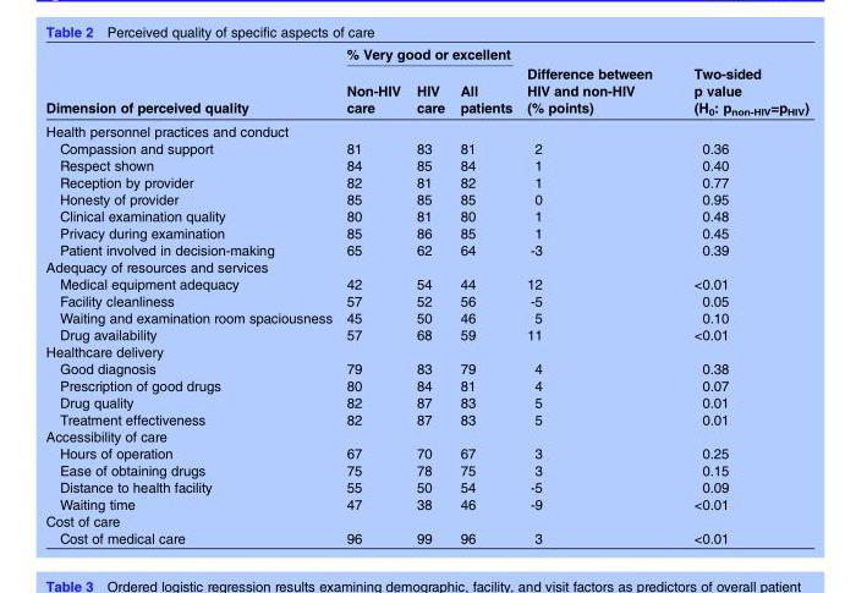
<table><thead><tr><td rowspan="2">Dimension of perceived quality</td><td colspan="3">% Very good or excellent</td><td rowspan="2">Difference between HIV and non-HIV (% points)</td><td rowspan="2">Two-sided p value (H<sub>0</sub>: p<sub>non-HIV</sub>=p<sub>HIV</sub>)</td></tr><tr><td>Non-HIV care</td><td>HIV care</td><td>All patients</td></tr></thead><tbody><tr><td colspan="6">Health personnel practices and conduct</td></tr><tr><td>Compassion and support</td><td>81</td><td>83</td><td>81</td><td>2</td><td>0.36</td></tr><tr><td>Respect shown</td><td>84</td><td>85</td><td>84</td><td>1</td><td>0.40</td></tr><tr><td>Reception by provider</td><td>82</td><td>81</td><td>82</td><td>1</td><td>0.77</td></tr><tr><td>Honesty of provider</td><td>85</td><td>85</td><td>85</td><td>0</td><td>0.95</td></tr><tr><td>Clinical examination quality</td><td>80</td><td>81</td><td>80</td><td>1</td><td>0.48</td></tr><tr><td>Privacy during examination</td><td>85</td><td>86</td><td>85</td><td>1</td><td>0.45</td></tr><tr><td>Patient involved in decision-making</td><td>65</td><td>62</td><td>64</td><td>-3</td><td>0.39</td></tr><tr><td colspan="6">Adequacy of resources and services</td></tr><tr><td>Medical equipment adequacy</td><td>42</td><td>54</td><td>44</td><td>12</td><td>&lt;0.01</td></tr><tr><td>Facility cleanliness</td><td>57</td><td>52</td><td>56</td><td>-5</td><td>0.05</td></tr><tr><td>Waiting and examination room spaciousness</td><td>45</td><td>50</td><td>46</td><td>5</td><td>0.10</td></tr><tr><td>Drug availability</td><td>57</td><td>68</td><td>59</td><td>11</td><td>&lt;0.01</td></tr><tr><td colspan="6">Healthcare delivery</td></tr><tr><td>Good diagnosis</td><td>79</td><td>83</td><td>79</td><td>4</td><td>0.38</td></tr><tr><td>Prescription of good drugs</td><td>80</td><td>84</td><td>81</td><td>4</td><td>0.07</td></tr><tr><td>Drug quality</td><td>82</td><td>87</td><td>83</td><td>5</td><td>0.01</td></tr><tr><td>Treatment effectiveness</td><td>82</td><td>87</td><td>83</td><td>5</td><td>0.01</td></tr><tr><td colspan="6">Accessibility of care</td></tr><tr><td>Hours of operation</td><td>67</td><td>70</td><td>67</td><td>3</td><td>0.25</td></tr><tr><td>Ease of obtaining drugs</td><td>75</td><td>78</td><td>75</td><td>3</td><td>0.15</td></tr><tr><td>Distance to health facility</td><td>55</td><td>50</td><td>54</td><td>-5</td><td>0.09</td></tr><tr><td>Waiting time</td><td>47</td><td>38</td><td>46</td><td>-9</td><td>&lt;0.01</td></tr><tr><td colspan="6">Cost of care</td></tr><tr><td>Cost of medical care</td><td>96</td><td>99</td><td>96</td><td>3</td><td>&lt;0.01</td></tr></tbody></table>